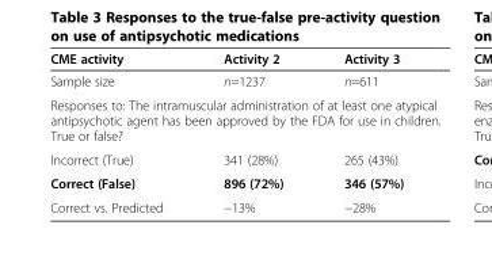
<table><thead><tr><td>CME activity</td><td>Activity 2</td><td>Activity 3</td></tr></thead><tbody><tr><td>Sample size</td><td>n=1237</td><td>n=611</td></tr><tr><td colspan="3">Responses to: The intramuscular administration of at least one atypical antipsychotic agent has been approved by the FDA for use in children. True or false?</td></tr><tr><td>Incorrect (True)</td><td>341 (28%)</td><td>265 (43%)</td></tr><tr><td>Correct (False)</td><td>896 (72%)</td><td>346 (57%)</td></tr><tr><td>Correct vs. Predicted</td><td>−13%</td><td>−28%</td></tr></tbody></table>